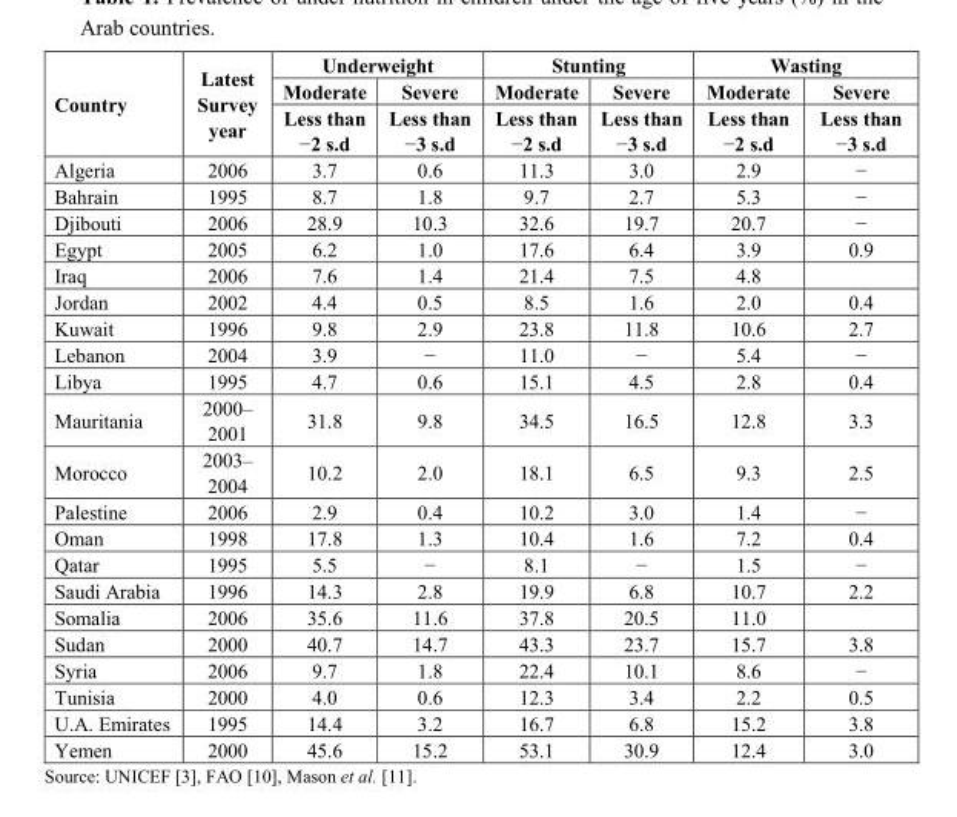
<table><thead><tr><td rowspan="3">Country</td><td rowspan="3">Latest Survey year</td><td colspan="2">Underweight</td><td colspan="2">Stunting</td><td colspan="2">Wasting</td></tr><tr><td rowspan="2">Moderate Less than −2 s.d</td><td rowspan="2">Severe Less than −3 s.d</td><td rowspan="2">Moderate Less than −2 s.d</td><td rowspan="2">Severe Less than −3 s.d</td><td rowspan="2">Moderate Less than −2 s.d</td><td rowspan="2">Severe Less than −3 s.d</td></tr><tr></tr></thead><tbody><tr><td>Algeria</td><td>2006</td><td>3.7</td><td>0.6</td><td>11.3</td><td>3.0</td><td>2.9</td><td>−</td></tr><tr><td>Bahrain</td><td>1995</td><td>8.7</td><td>1.8</td><td>9.7</td><td>2.7</td><td>5.3</td><td>−</td></tr><tr><td>Djibouti</td><td>2006</td><td>28.9</td><td>10.3</td><td>32.6</td><td>19.7</td><td>20.7</td><td>−</td></tr><tr><td>Egypt</td><td>2005</td><td>6.2</td><td>1.0</td><td>17.6</td><td>6.4</td><td>3.9</td><td>0.9</td></tr><tr><td>Iraq</td><td>2006</td><td>7.6</td><td>1.4</td><td>21.4</td><td>7.5</td><td>4.8</td><td></td></tr><tr><td>Jordan</td><td>2002</td><td>4.4</td><td>0.5</td><td>8.5</td><td>1.6</td><td>2.0</td><td>0.4</td></tr><tr><td>Kuwait</td><td>1996</td><td>9.8</td><td>2.9</td><td>23.8</td><td>11.8</td><td>10.6</td><td>2.7</td></tr><tr><td>Lebanon</td><td>2004</td><td>3.9</td><td>−</td><td>11.0</td><td>−</td><td>5.4</td><td>−</td></tr><tr><td>Libya</td><td>1995</td><td>4.7</td><td>0.6</td><td>15.1</td><td>4.5</td><td>2.8</td><td>0.4</td></tr><tr><td>Mauritania</td><td>2000– 2001</td><td>31.8</td><td>9.8</td><td>34.5</td><td>16.5</td><td>12.8</td><td>3.3</td></tr><tr><td>Morocco</td><td>2003– 2004</td><td>10.2</td><td>2.0</td><td>18.1</td><td>6.5</td><td>9.3</td><td>2.5</td></tr><tr><td>Palestine</td><td>2006</td><td>2.9</td><td>0.4</td><td>10.2</td><td>3.0</td><td>1.4</td><td>−</td></tr><tr><td>Oman</td><td>1998</td><td>17.8</td><td>1.3</td><td>10.4</td><td>1.6</td><td>7.2</td><td>0.4</td></tr><tr><td>Qatar</td><td>1995</td><td>5.5</td><td>−</td><td>8.1</td><td>−</td><td>1.5</td><td>−</td></tr><tr><td>Saudi Arabia</td><td>1996</td><td>14.3</td><td>2.8</td><td>19.9</td><td>6.8</td><td>10.7</td><td>2.2</td></tr><tr><td>Somalia</td><td>2006</td><td>35.6</td><td>11.6</td><td>37.8</td><td>20.5</td><td>11.0</td><td></td></tr><tr><td>Sudan</td><td>2000</td><td>40.7</td><td>14.7</td><td>43.3</td><td>23.7</td><td>15.7</td><td>3.8</td></tr><tr><td>Syria</td><td>2006</td><td>9.7</td><td>1.8</td><td>22.4</td><td>10.1</td><td>8.6</td><td>−</td></tr><tr><td>Tunisia</td><td>2000</td><td>4.0</td><td>0.6</td><td>12.3</td><td>3.4</td><td>2.2</td><td>0.5</td></tr><tr><td>U.A. Emirates</td><td>1995</td><td>14.4</td><td>3.2</td><td>16.7</td><td>6.8</td><td>15.2</td><td>3.8</td></tr><tr><td>Yemen</td><td>2000</td><td>45.6</td><td>15.2</td><td>53.1</td><td>30.9</td><td>12.4</td><td>3.0</td></tr></tbody></table>